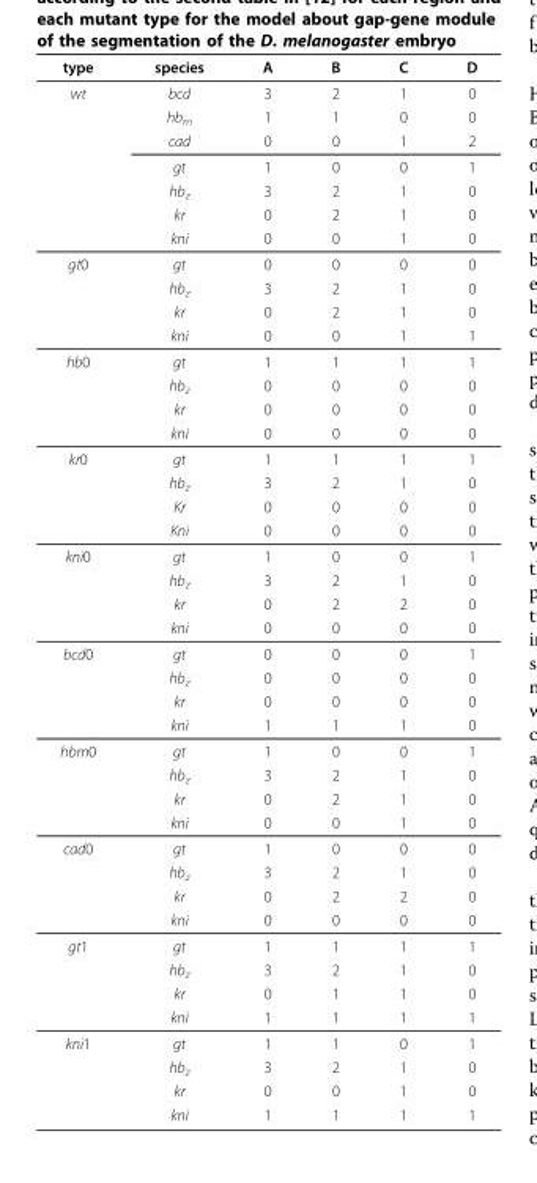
<table><thead><tr><td>type</td><td>species</td><td>A</td><td>B</td><td>C</td><td>D</td></tr></thead><tbody><tr><td rowspan="7">wt</td><td>bcd</td><td>3</td><td>2</td><td>1</td><td>0</td></tr><tr><td>hb<sub>m</sub></td><td>1</td><td>1</td><td>0</td><td>0</td></tr><tr><td>cad</td><td>0</td><td>0</td><td>1</td><td>2</td></tr><tr><td>gt</td><td>1</td><td>0</td><td>0</td><td>1</td></tr><tr><td>hb<sub>z</sub></td><td>3</td><td>2</td><td>1</td><td>0</td></tr><tr><td>kr</td><td>0</td><td>2</td><td>1</td><td>0</td></tr><tr><td>kni</td><td>0</td><td>0</td><td>1</td><td>0</td></tr><tr><td rowspan="4">gt0</td><td>gt</td><td>0</td><td>0</td><td>0</td><td>0</td></tr><tr><td>hb<sub>z</sub></td><td>3</td><td>2</td><td>1</td><td>0</td></tr><tr><td>kr</td><td>0</td><td>2</td><td>1</td><td>0</td></tr><tr><td>kni</td><td>0</td><td>0</td><td>1</td><td>1</td></tr><tr><td rowspan="4">hb0</td><td>gt</td><td>1</td><td>1</td><td>1</td><td>1</td></tr><tr><td>hb<sub>z</sub></td><td>0</td><td>0</td><td>0</td><td>0</td></tr><tr><td>kr</td><td>0</td><td>0</td><td>0</td><td>0</td></tr><tr><td>kni</td><td>0</td><td>0</td><td>0</td><td>0</td></tr><tr><td rowspan="4">kr0</td><td>gt</td><td>1</td><td>1</td><td>1</td><td>1</td></tr><tr><td>hb<sub>z</sub></td><td>3</td><td>2</td><td>1</td><td>0</td></tr><tr><td>Kr</td><td>0</td><td>0</td><td>0</td><td>0</td></tr><tr><td>Kni</td><td>0</td><td>0</td><td>0</td><td>0</td></tr><tr><td rowspan="4">kni0</td><td>gt</td><td>1</td><td>0</td><td>0</td><td>1</td></tr><tr><td>hb<sub>z</sub></td><td>3</td><td>2</td><td>1</td><td>0</td></tr><tr><td>kr</td><td>0</td><td>2</td><td>2</td><td>0</td></tr><tr><td>kni</td><td>0</td><td>0</td><td>0</td><td>0</td></tr><tr><td rowspan="4">bcd0</td><td>gt</td><td>0</td><td>0</td><td>0</td><td>1</td></tr><tr><td>hb<sub>z</sub></td><td>0</td><td>0</td><td>0</td><td>0</td></tr><tr><td>kr</td><td>0</td><td>0</td><td>0</td><td>0</td></tr><tr><td>kni</td><td>1</td><td>1</td><td>1</td><td>0</td></tr><tr><td rowspan="4">hbm0</td><td>gt</td><td>1</td><td>0</td><td>0</td><td>1</td></tr><tr><td>hb<sub>z</sub></td><td>3</td><td>2</td><td>1</td><td>0</td></tr><tr><td>kr</td><td>0</td><td>2</td><td>1</td><td>0</td></tr><tr><td>kni</td><td>0</td><td>0</td><td>1</td><td>0</td></tr><tr><td rowspan="4">cad0</td><td>gt</td><td>1</td><td>0</td><td>0</td><td>0</td></tr><tr><td>hb<sub>z</sub></td><td>3</td><td>2</td><td>1</td><td>0</td></tr><tr><td>kr</td><td>0</td><td>2</td><td>2</td><td>0</td></tr><tr><td>kni</td><td>0</td><td>0</td><td>0</td><td>0</td></tr><tr><td rowspan="4">gt1</td><td>gt</td><td>1</td><td>1</td><td>1</td><td>1</td></tr><tr><td>hb<sub>z</sub></td><td>3</td><td>2</td><td>1</td><td>0</td></tr><tr><td>kr</td><td>0</td><td>1</td><td>1</td><td>0</td></tr><tr><td>kni</td><td>1</td><td>1</td><td>1</td><td>1</td></tr><tr><td rowspan="4">kni1</td><td>gt</td><td>1</td><td>1</td><td>0</td><td>1</td></tr><tr><td>hb<sub>z</sub></td><td>3</td><td>2</td><td>1</td><td>0</td></tr><tr><td>kr</td><td>0</td><td>0</td><td>1</td><td>0</td></tr><tr><td>kni</td><td>1</td><td>1</td><td>1</td><td>1</td></tr></tbody></table>